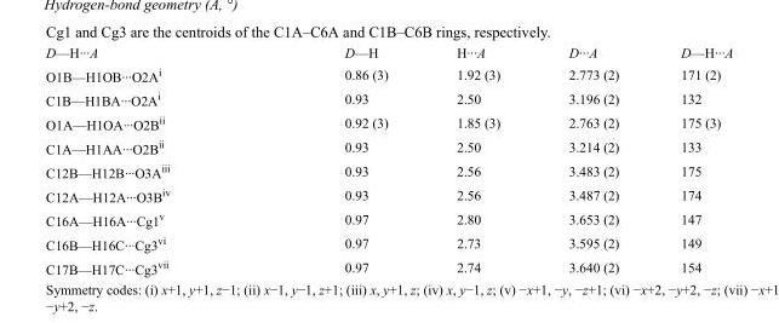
<table><tbody><tr><td>D—H···A</td><td>D—H</td><td>H···A</td><td>D···A</td><td>D—H···A</td></tr><tr><td>O1B—H1OB···O2A<sup>i</sup></td><td>0.86 (3)</td><td>1.92 (3)</td><td>2.773 (2)</td><td>171 (2)</td></tr><tr><td>C1B—H1BA···O2A<sup>i</sup></td><td>0.93</td><td>2.50</td><td>3.196 (2)</td><td>132</td></tr><tr><td>O1A—H1OA···O2B<sup>ii</sup></td><td>0.92 (3)</td><td>1.85 (3)</td><td>2.763 (2)</td><td>175 (3)</td></tr><tr><td>C1A—H1AA···O2B<sup>ii</sup></td><td>0.93</td><td>2.50</td><td>3.214 (2)</td><td>133</td></tr><tr><td>C12B—H12B···O3A<sup>iii</sup></td><td>0.93</td><td>2.56</td><td>3.483 (2)</td><td>175</td></tr><tr><td>C12A—H12A···O3B<sup>iv</sup></td><td>0.93</td><td>2.56</td><td>3.487 (2)</td><td>174</td></tr><tr><td>C16A—H16A···Cg1<sup>v</sup></td><td>0.97</td><td>2.80</td><td>3.653 (2)</td><td>147</td></tr><tr><td>C16B—H16C···Cg3<sup>vi</sup></td><td>0.97</td><td>2.73</td><td>3.595 (2)</td><td>149</td></tr><tr><td>C17B—H17C···Cg3<sup>vii</sup></td><td>0.97</td><td>2.74</td><td>3.640 (2)</td><td>154</td></tr></tbody></table>